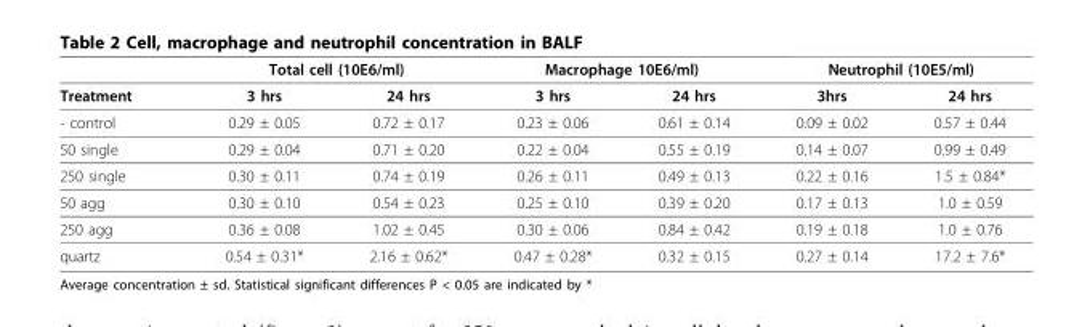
<table><thead><tr><td rowspan="2">Treatment</td><td colspan="2">Total cell (10E6/ml)</td><td colspan="2">Macrophage 10E6/ml)</td><td colspan="2">Neutrophil (10E5/ml)</td></tr><tr><td>3 hrs</td><td>24 hrs</td><td>3 hrs</td><td>24 hrs</td><td>3hrs</td><td>24 hrs</td></tr></thead><tbody><tr><td>- control</td><td>0.29 ± 0.05</td><td>0.72 ± 0.17</td><td>0.23 ± 0.06</td><td>0.61 ± 0.14</td><td>0.09 ± 0.02</td><td>0.57 ± 0.44</td></tr><tr><td>50 single</td><td>0.29 ± 0.04</td><td>0.71 ± 0.20</td><td>0.22 ± 0.04</td><td>0.55 ± 0.19</td><td>0.14 ± 0.07</td><td>0.99 ± 0.49</td></tr><tr><td>250 single</td><td>0.30 ± 0.11</td><td>0.74 ± 0.19</td><td>0.26 ± 0.11</td><td>0.49 ± 0.13</td><td>0.22 ± 0.16</td><td>1.5 ± 0.84*</td></tr><tr><td>50 agg</td><td>0.30 ± 0.10</td><td>0.54 ± 0.23</td><td>0.25 ± 0.10</td><td>0.39 ± 0.20</td><td>0.17 ± 0.13</td><td>1.0 ± 0.59</td></tr><tr><td>250 agg</td><td>0.36 ± 0.08</td><td>1.02 ± 0.45</td><td>0.30 ± 0.06</td><td>0.84 ± 0.42</td><td>0.19 ± 0.18</td><td>1.0 ± 0.76</td></tr><tr><td>quartz</td><td>0.54 ± 0.31*</td><td>2.16 ± 0.62*</td><td>0.47 ± 0.28*</td><td>0.32 ± 0.15</td><td>0.27 ± 0.14</td><td>17.2 ± 7.6*</td></tr></tbody></table>